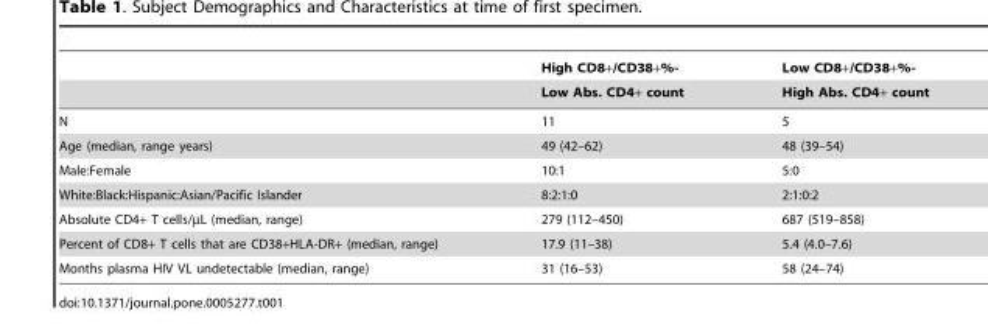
<table><thead><tr><td rowspan="2"></td><td rowspan="2">High CD8+/CD38+%- Low Abs. CD4+ count</td><td rowspan="2">Low CD8+/CD38+%- High Abs. CD4+ count</td></tr><tr></tr></thead><tbody><tr><td>N</td><td>11</td><td>5</td></tr><tr><td>Age (median, range years)</td><td>49 (42–62)</td><td>48 (39–54)</td></tr><tr><td>Male:Female</td><td>10:1</td><td>5:0</td></tr><tr><td>White:Black:Hispanic:Asian/Pacific Islander</td><td>8:2:1:0</td><td>2:1:0:2</td></tr><tr><td>Absolute CD4+ T cells/µL (median, range)</td><td>279 (112–450)</td><td>687 (519–858)</td></tr><tr><td>Percent of CD8+ T cells that are CD38+HLA-DR+ (median, range)</td><td>17.9 (11–38)</td><td>5.4 (4.0–7.6)</td></tr><tr><td>Months plasma HIV VL undetectable (median, range)</td><td>31 (16–53)</td><td>58 (24–74)</td></tr></tbody></table>